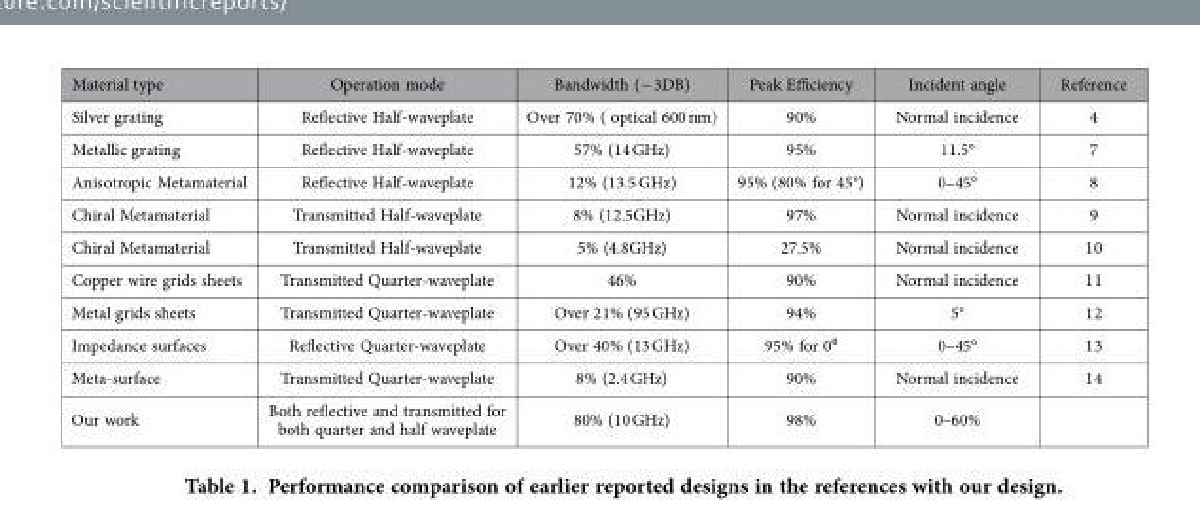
<table><thead><tr><td>Material type</td><td>Operation mode</td><td>Bandwidth (− 3DB)</td><td>Peak Efficiency</td><td>Incident angle</td><td>Reference</td></tr></thead><tbody><tr><td>Silver grating</td><td>Reflective Half-waveplate</td><td>Over 70% ( optical 600 nm)</td><td>90%</td><td>Normal incidence</td><td>4</td></tr><tr><td>Metallic grating</td><td>Reflective Half-waveplate</td><td>57% (14 GHz)</td><td>95%</td><td>11.5°</td><td>7</td></tr><tr><td>Anisotropic Metamaterial</td><td>Reflective Half-waveplate</td><td>12% (13.5 GHz)</td><td>95% (80% for 45°)</td><td>0–45°</td><td>8</td></tr><tr><td>Chiral Metamaterial</td><td>Transmitted Half-waveplate</td><td>8% (12.5GHz)</td><td>97%</td><td>Normal incidence</td><td>9</td></tr><tr><td>Chiral Metamaterial</td><td>Transmitted Half-waveplate</td><td>5% (4.8GHz)</td><td>27.5%</td><td>Normal incidence</td><td>10</td></tr><tr><td>Copper wire grids sheets</td><td>Transmitted Quarter-waveplate</td><td>46%</td><td>90%</td><td>Normal incidence</td><td>11</td></tr><tr><td>Metal grids sheets</td><td>Transmitted Quarter-waveplate</td><td>Over 21% (95 GHz)</td><td>94%</td><td>5°</td><td>12</td></tr><tr><td>Impedance surfaces</td><td>Reflective Quarter-waveplate</td><td>Over 40% (13 GHz)</td><td>95% for 0⁰</td><td>0–45°</td><td>13</td></tr><tr><td>Meta-surface</td><td>Transmitted Quarter-waveplate</td><td>8% (2.4 GHz)</td><td>90%</td><td>Normal incidence</td><td>14</td></tr><tr><td>Our work</td><td>Both reflective and transmitted for both quarter and half waveplate</td><td>80% (10 GHz)</td><td>98%</td><td>0–60%</td><td></td></tr></tbody></table>